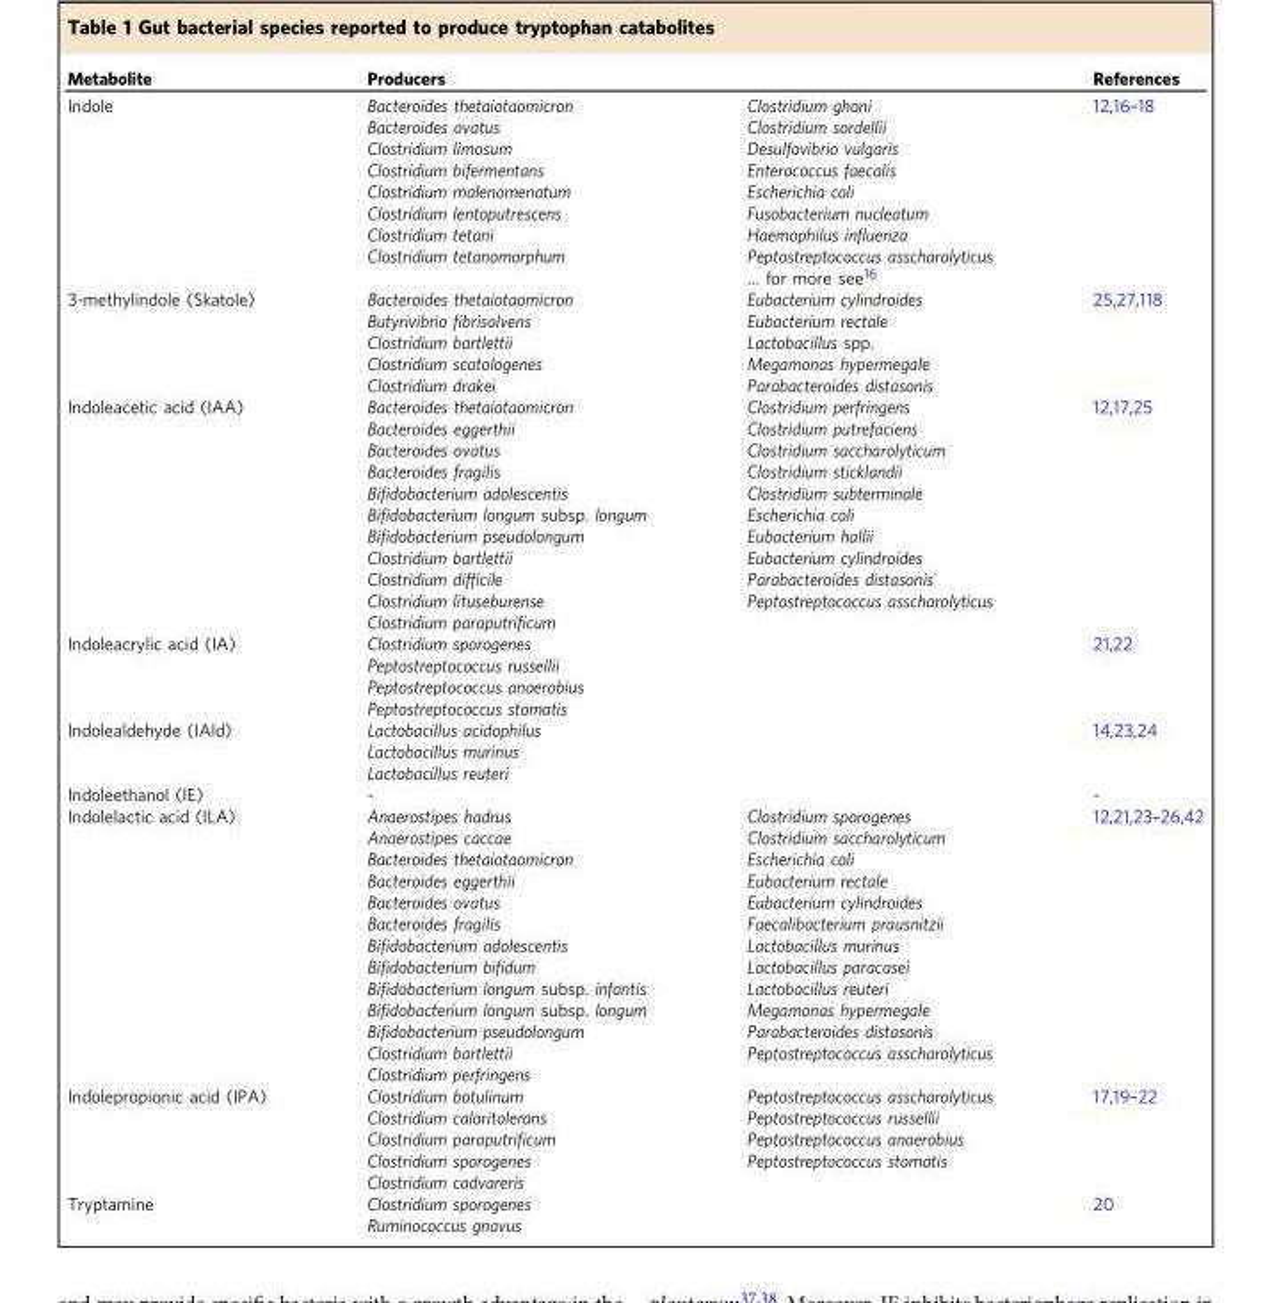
<table><thead><tr><td>Metabolite</td><td>Producers</td><td></td><td>References</td></tr></thead><tbody><tr><td>Indole</td><td>Bacteroides thetaiotaomicron Bacteroides ovatus Clostridium limosum Clostridium bifermentans Clostridium malenomenatum Clostridium lentoputrescens Clostridium tetani Clostridium tetanomorphum</td><td>Clostridium ghoni Clostridium sordellii Desulfovibrio vulgaris Enterococcus faecalis Escherichia coli Fusobacterium nucleatum Haemophilus influenza Peptostreptococcus asscharolyticus … for more see<sup>16</sup></td><td>12,16–18</td></tr><tr><td>3-methylindole (Skatole)</td><td>Bacteroides thetaiotaomicron Butyrivibrio fibrisolvens Clostridium bartlettii Clostridium scatologenes Clostridium drakei</td><td>Eubacterium cylindroides Eubacterium rectale Lactobacillus spp. Megamonas hypermegale Parabacteroides distasonis</td><td>25,27,118</td></tr><tr><td>Indoleacetic acid (IAA)</td><td>Bacteroides thetaiotaomicron Bacteroides eggerthii Bacteroides ovatus Bacteroides fragilis Bifidobacterium adolescentis Bifidobacterium longum subsp. longum Bifidobacterium pseudolongum Clostridium bartlettii Clostridium difficile Clostridium lituseburense Clostridium paraputrificum</td><td>Clostridium perfringens Clostridium putrefaciens Clostridium saccharolyticum Clostridium sticklandii Clostridium subterminale Escherichia coli Eubacterium hallii Eubacterium cylindroides Parabacteroides distasonis Peptostreptococcus asscharolyticus</td><td>12,17,25</td></tr><tr><td>Indoleacrylic acid (IA)</td><td>Clostridium sporogenes Peptostreptococcus russellii Peptostreptococcus anaerobius Peptostreptococcus stomatis</td><td></td><td>21,22</td></tr><tr><td>Indolealdehyde (IAld)</td><td>Lactobacillus acidophilus Lactobacillus murinus Lactobacillus reuteri</td><td></td><td>14,23,24</td></tr><tr><td>Indoleethanol (IE)</td><td>-</td><td></td><td>-</td></tr><tr><td>Indolelactic acid (ILA)</td><td>Anaerostipes hadrus Anaerostipes caccae Bacteroides thetaiotaomicron Bacteroides eggerthii Bacteroides ovatus Bacteroides fragilis Bifidobacterium adolescentis Bifidobacterium bifidum Bifidobacterium longum subsp. infantis Bifidobacterium longum subsp. longum Bifidobacterium pseudolongum Clostridium bartlettii Clostridium perfringens</td><td>Clostridium sporogenes Clostridium saccharolyticum Escherichia coli Eubacterium rectale Eubacterium cylindroides Faecalibacterium prausnitzii Lactobacillus murinus Lactobacillus paracasei Lactobacillus reuteri Megamonas hypermegale Parabacteroides distasonis Peptostreptococcus asscharolyticus</td><td>12,21,23–26,42</td></tr><tr><td>Indolepropionic acid (IPA)</td><td>Clostridium botulinum Clostridium caloritolerans Clostridium paraputrificum Clostridium sporogenes Clostridium cadvareris</td><td>Peptostreptococcus asscharolyticus Peptostreptococcus russellii Peptostreptococcus anaerobius Peptostreptococcus stomatis</td><td>17,19–22</td></tr><tr><td>Tryptamine</td><td>Clostridium sporogenes Ruminococcus gnavus</td><td></td><td>20</td></tr></tbody></table>